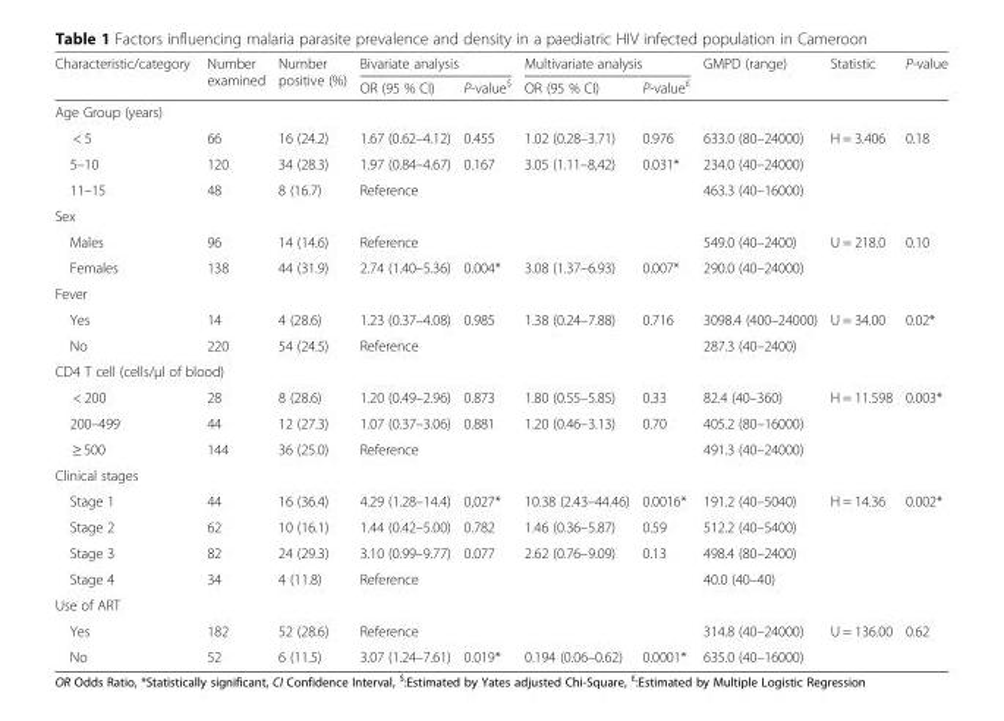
<table><thead><tr><td rowspan="2">Characteristic/category</td><td rowspan="2">Number examined</td><td rowspan="2">Number positive (%)</td><td colspan="2">Bivariate analysis</td><td colspan="2">Multivariate analysis</td><td rowspan="2">GMPD (range)</td><td rowspan="2">Statistic</td><td rowspan="2">P-value</td></tr><tr><td>OR (95 % CI)</td><td>P-value<sup>$</sup></td><td>OR (95 % CI)</td><td>P-value<sup>£</sup></td></tr></thead><tbody><tr><td colspan="10">Age Group (years)</td></tr><tr><td>&lt; 5</td><td>66</td><td>16 (24.2)</td><td>1.67 (0.62–4.12)</td><td>0.455</td><td>1.02 (0.28–3.71)</td><td>0.976</td><td>633.0 (80–24000)</td><td>H = 3.406</td><td>0.18</td></tr><tr><td>5–10</td><td>120</td><td>34 (28.3)</td><td>1.97 (0.84–4.67)</td><td>0.167</td><td>3.05 (1.11–8,42)</td><td>0.031*</td><td>234.0 (40–24000)</td><td></td><td></td></tr><tr><td>11–15</td><td>48</td><td>8 (16.7)</td><td>Reference</td><td></td><td></td><td></td><td>463.3 (40–16000)</td><td></td><td></td></tr><tr><td colspan="10">Sex</td></tr><tr><td>Males</td><td>96</td><td>14 (14.6)</td><td>Reference</td><td></td><td></td><td></td><td>549.0 (40–2400)</td><td>U = 218.0</td><td>0.10</td></tr><tr><td>Females</td><td>138</td><td>44 (31.9)</td><td>2.74 (1.40–5.36)</td><td>0.004*</td><td>3.08 (1.37–6.93)</td><td>0.007*</td><td>290.0 (40–24000)</td><td></td><td></td></tr><tr><td colspan="10">Fever</td></tr><tr><td>Yes</td><td>14</td><td>4 (28.6)</td><td>1.23 (0.37–4.08)</td><td>0.985</td><td>1.38 (0.24–7.88)</td><td>0.716</td><td>3098.4 (400–24000)</td><td>U = 34.00</td><td>0.02*</td></tr><tr><td>No</td><td>220</td><td>54 (24.5)</td><td>Reference</td><td></td><td></td><td></td><td>287.3 (40–2400)</td><td></td><td></td></tr><tr><td colspan="10">CD4 T cell (cells/μl of blood)</td></tr><tr><td>&lt; 200</td><td>28</td><td>8 (28.6)</td><td>1.20 (0.49–2.96)</td><td>0.873</td><td>1.80 (0.55–5.85)</td><td>0.33</td><td>82.4 (40–360)</td><td>H = 11.598</td><td>0.003*</td></tr><tr><td>200–499</td><td>44</td><td>12 (27.3)</td><td>1.07 (0.37–3.06)</td><td>0.881</td><td>1.20 (0.46–3.13)</td><td>0.70</td><td>405.2 (80–16000)</td><td></td><td></td></tr><tr><td>≥ 500</td><td>144</td><td>36 (25.0)</td><td>Reference</td><td></td><td></td><td></td><td>491.3 (40–24000)</td><td></td><td></td></tr><tr><td colspan="10">Clinical stages</td></tr><tr><td>Stage 1</td><td>44</td><td>16 (36.4)</td><td>4.29 (1.28–14.4)</td><td>0,027*</td><td>10.38 (2.43–44.46)</td><td>0.0016*</td><td>191.2 (40–5040)</td><td>H = 14.36</td><td>0.002*</td></tr><tr><td>Stage 2</td><td>62</td><td>10 (16.1)</td><td>1.44 (0.42–5.00)</td><td>0.782</td><td>1.46 (0.36–5.87)</td><td>0.59</td><td>512.2 (40–5400)</td><td></td><td></td></tr><tr><td>Stage 3</td><td>82</td><td>24 (29.3)</td><td>3.10 (0.99–9.77)</td><td>0.077</td><td>2.62 (0.76–9.09)</td><td>0.13</td><td>498.4 (80–2400)</td><td></td><td></td></tr><tr><td>Stage 4</td><td>34</td><td>4 (11.8)</td><td>Reference</td><td></td><td></td><td></td><td>40.0 (40–40)</td><td></td><td></td></tr><tr><td colspan="10">Use of ART</td></tr><tr><td>Yes</td><td>182</td><td>52 (28.6)</td><td>Reference</td><td></td><td></td><td></td><td>314.8 (40–24000)</td><td>U = 136.00</td><td>0.62</td></tr><tr><td>No</td><td>52</td><td>6 (11.5)</td><td>3.07 (1.24–7.61)</td><td>0.019*</td><td>0.194 (0.06–0.62)</td><td>0.0001*</td><td>635.0 (40–16000)</td><td></td><td></td></tr></tbody></table>